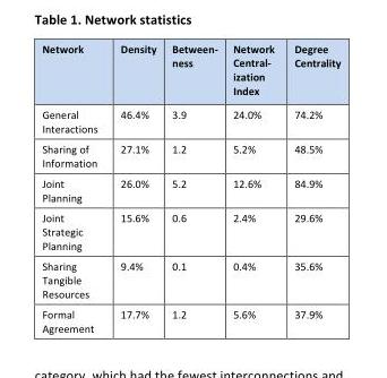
<table><thead><tr><td>Network</td><td>Density</td><td>Between- ness</td><td>Network Central- ization Index</td><td>Degree Centrality</td></tr></thead><tbody><tr><td>General Interactions</td><td>46.4%</td><td>3.9</td><td>24.0%</td><td>74.2%</td></tr><tr><td>Sharing of Information</td><td>27.1%</td><td>1.2</td><td>5.2%</td><td>48.5%</td></tr><tr><td>Joint Planning</td><td>26.0%</td><td>5.2</td><td>12.6%</td><td>84.9%</td></tr><tr><td>Joint Strategic Planning</td><td>15.6%</td><td>0.6</td><td>2.4%</td><td>29.6%</td></tr><tr><td>Sharing Tangible Resources</td><td>9.4%</td><td>0.1</td><td>0.4%</td><td>35.6%</td></tr><tr><td>Formal Agreement</td><td>17.7%</td><td>1.2</td><td>5.6%</td><td>37.9%</td></tr></tbody></table>